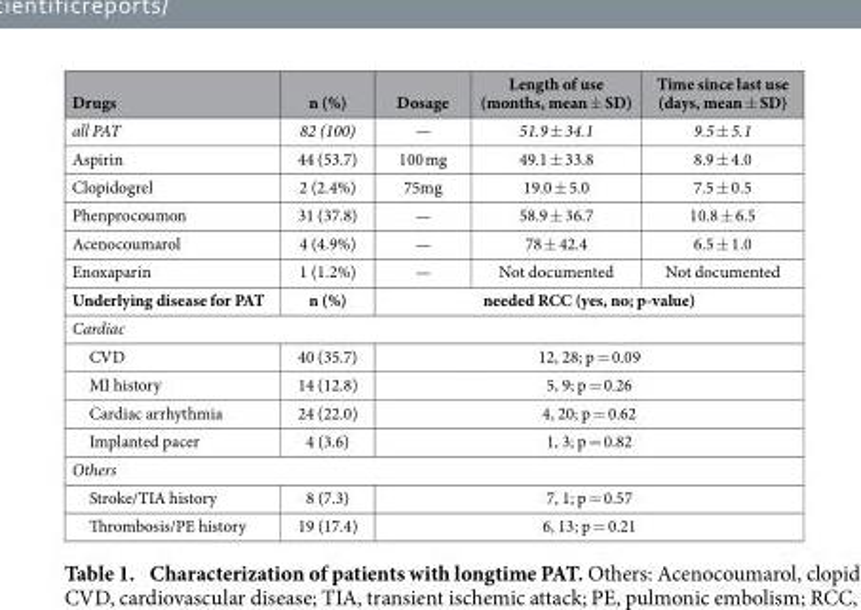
<table><thead><tr><td>Drugs</td><td>n (%)</td><td>Dosage</td><td>Length of use (months, mean ± SD)</td><td>Time since last use (days, mean ± SD)</td></tr></thead><tbody><tr><td>all PAT</td><td>82 (100)</td><td>—</td><td>51.9 ± 34.1</td><td>9.5 ± 5.1</td></tr><tr><td>Aspirin</td><td>44 (53.7)</td><td>100 mg</td><td>49.1 ± 33.8</td><td>8.9 ± 4.0</td></tr><tr><td>Clopidogrel</td><td>2 (2.4%)</td><td>75mg</td><td>19.0 ± 5.0</td><td>7.5 ± 0.5</td></tr><tr><td>Phenprocoumon</td><td>31 (37.8)</td><td>—</td><td>58.9 ± 36.7</td><td>10.8 ± 6.5</td></tr><tr><td>Acenocoumarol</td><td>4 (4.9%)</td><td>—</td><td>78 ± 42.4</td><td>6.5 ± 1.0</td></tr><tr><td>Enoxaparin</td><td>1 (1.2%)</td><td>—</td><td>Not documented</td><td>Not documented</td></tr><tr><td>Underlying disease for PAT</td><td>n (%)</td><td colspan="3">needed RCC (yes, no; p-value)</td></tr><tr><td colspan="5">Cardiac</td></tr><tr><td>CVD</td><td>40 (35.7)</td><td colspan="3">12, 28; p = 0.09</td></tr><tr><td>MI history</td><td>14 (12.8)</td><td colspan="3">5, 9; p = 0.26</td></tr><tr><td>Cardiac arrhythmia</td><td>24 (22.0)</td><td colspan="3">4, 20; p = 0.62</td></tr><tr><td>Implanted pacer</td><td>4 (3.6)</td><td colspan="3">1, 3; p = 0.82</td></tr><tr><td colspan="5">Others</td></tr><tr><td>Stroke/TIA history</td><td>8 (7.3)</td><td colspan="3">7, 1; p = 0.57</td></tr><tr><td>Thrombosis/PE history</td><td>19 (17.4)</td><td colspan="3">6, 13; p = 0.21</td></tr></tbody></table>